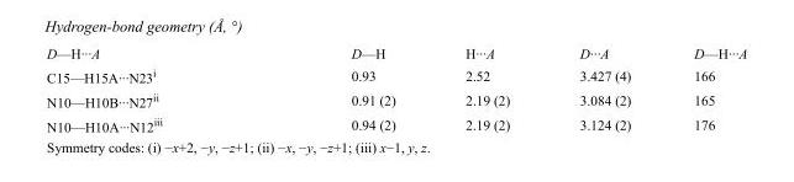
<table><tbody><tr><td>D—H···A</td><td>D—H</td><td>H···A</td><td>D···A</td><td>D—H···A</td></tr><tr><td>C15—H15A···N23<sup>i</sup></td><td>0.93</td><td>2.52</td><td>3.427 (4)</td><td>166</td></tr><tr><td>N10—H10B···N27<sup>ii</sup></td><td>0.91 (2)</td><td>2.19 (2)</td><td>3.084 (2)</td><td>165</td></tr><tr><td>N10—H10A···N12<sup>iii</sup></td><td>0.94 (2)</td><td>2.19 (2)</td><td>3.124 (2)</td><td>176</td></tr></tbody></table>